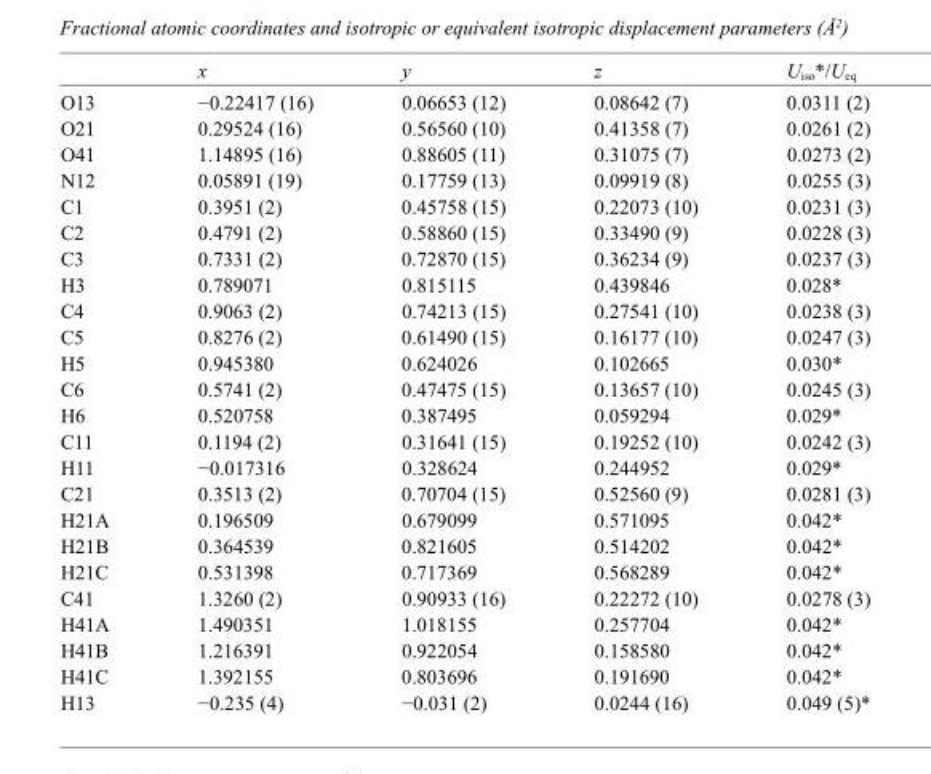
<table><thead><tr><td></td><td>x</td><td>y</td><td>z</td><td>U<sub>iso</sub>*/U<sub>eq</sub></td></tr></thead><tbody><tr><td>O13</td><td>−0.22417 (16)</td><td>0.06653 (12)</td><td>0.08642 (7)</td><td>0.0311 (2)</td></tr><tr><td>O21</td><td>0.29524 (16)</td><td>0.56560 (10)</td><td>0.41358 (7)</td><td>0.0261 (2)</td></tr><tr><td>O41</td><td>1.14895 (16)</td><td>0.88605 (11)</td><td>0.31075 (7)</td><td>0.0273 (2)</td></tr><tr><td>N12</td><td>0.05891 (19)</td><td>0.17759 (13)</td><td>0.09919 (8)</td><td>0.0255 (3)</td></tr><tr><td>C1</td><td>0.3951 (2)</td><td>0.45758 (15)</td><td>0.22073 (10)</td><td>0.0231 (3)</td></tr><tr><td>C2</td><td>0.4791 (2)</td><td>0.58860 (15)</td><td>0.33490 (9)</td><td>0.0228 (3)</td></tr><tr><td>C3</td><td>0.7331 (2)</td><td>0.72870 (15)</td><td>0.36234 (9)</td><td>0.0237 (3)</td></tr><tr><td>H3</td><td>0.789071</td><td>0.815115</td><td>0.439846</td><td>0.028*</td></tr><tr><td>C4</td><td>0.9063 (2)</td><td>0.74213 (15)</td><td>0.27541 (10)</td><td>0.0238 (3)</td></tr><tr><td>C5</td><td>0.8276 (2)</td><td>0.61490 (15)</td><td>0.16177 (10)</td><td>0.0247 (3)</td></tr><tr><td>H5</td><td>0.945380</td><td>0.624026</td><td>0.102665</td><td>0.030*</td></tr><tr><td>C6</td><td>0.5741 (2)</td><td>0.47475 (15)</td><td>0.13657 (10)</td><td>0.0245 (3)</td></tr><tr><td>H6</td><td>0.520758</td><td>0.387495</td><td>0.059294</td><td>0.029*</td></tr><tr><td>C11</td><td>0.1194 (2)</td><td>0.31641 (15)</td><td>0.19252 (10)</td><td>0.0242 (3)</td></tr><tr><td>H11</td><td>−0.017316</td><td>0.328624</td><td>0.244952</td><td>0.029*</td></tr><tr><td>C21</td><td>0.3513 (2)</td><td>0.70704 (15)</td><td>0.52560 (9)</td><td>0.0281 (3)</td></tr><tr><td>H21A</td><td>0.196509</td><td>0.679099</td><td>0.571095</td><td>0.042*</td></tr><tr><td>H21B</td><td>0.364539</td><td>0.821605</td><td>0.514202</td><td>0.042*</td></tr><tr><td>H21C</td><td>0.531398</td><td>0.717369</td><td>0.568289</td><td>0.042*</td></tr><tr><td>C41</td><td>1.3260 (2)</td><td>0.90933 (16)</td><td>0.22272 (10)</td><td>0.0278 (3)</td></tr><tr><td>H41A</td><td>1.490351</td><td>1.018155</td><td>0.257704</td><td>0.042*</td></tr><tr><td>H41B</td><td>1.216391</td><td>0.922054</td><td>0.158580</td><td>0.042*</td></tr><tr><td>H41C</td><td>1.392155</td><td>0.803696</td><td>0.191690</td><td>0.042*</td></tr><tr><td>H13</td><td>−0.235 (4)</td><td>−0.031 (2)</td><td>0.0244 (16)</td><td>0.049 (5)*</td></tr></tbody></table>